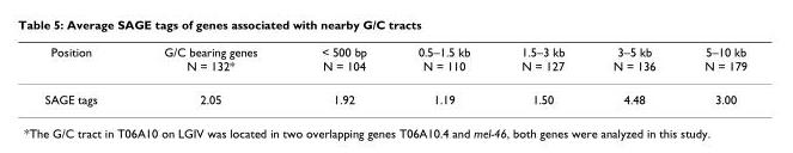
<table><thead><tr><td>Position</td><td>G/C bearing genes N = 132*</td><td>&lt; 500 bp N = 104</td><td>0.5–1.5 kb N = 110</td><td>1.5–3 kb N = 127</td><td>3–5 kb N = 136</td><td>5–10 kb N = 179</td></tr></thead><tbody><tr><td>SAGE tags</td><td>2.05</td><td>1.92</td><td>1.19</td><td>1.50</td><td>4.48</td><td>3.00</td></tr></tbody></table>